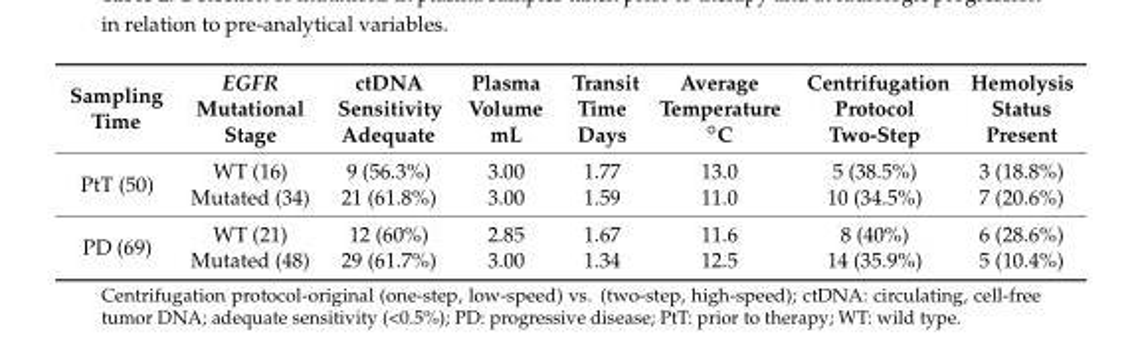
<table><thead><tr><td>Sampling Time</td><td>EGFR Mutational Stage</td><td>ctDNA Sensitivity Adequate</td><td>Plasma Volume mL</td><td>Transit Time Days</td><td>Average Temperature ◦C</td><td>Centrifugation Protocol Two-Step</td><td>Hemolysis Status Present</td></tr></thead><tbody><tr><td rowspan="2">PtT (50)</td><td>WT (16)</td><td>9 (56.3%)</td><td>3.00</td><td>1.77</td><td>13.0</td><td>5 (38.5%)</td><td>3 (18.8%)</td></tr><tr><td>Mutated (34)</td><td>21 (61.8%)</td><td>3.00</td><td>1.59</td><td>11.0</td><td>10 (34.5%)</td><td>7 (20.6%)</td></tr><tr><td rowspan="2">PD (69)</td><td>WT (21)</td><td>12 (60%)</td><td>2.85</td><td>1.67</td><td>11.6</td><td>8 (40%)</td><td>6 (28.6%)</td></tr><tr><td>Mutated (48)</td><td>29 (61.7%)</td><td>3.00</td><td>1.34</td><td>12.5</td><td>14 (35.9%)</td><td>5 (10.4%)</td></tr></tbody></table>